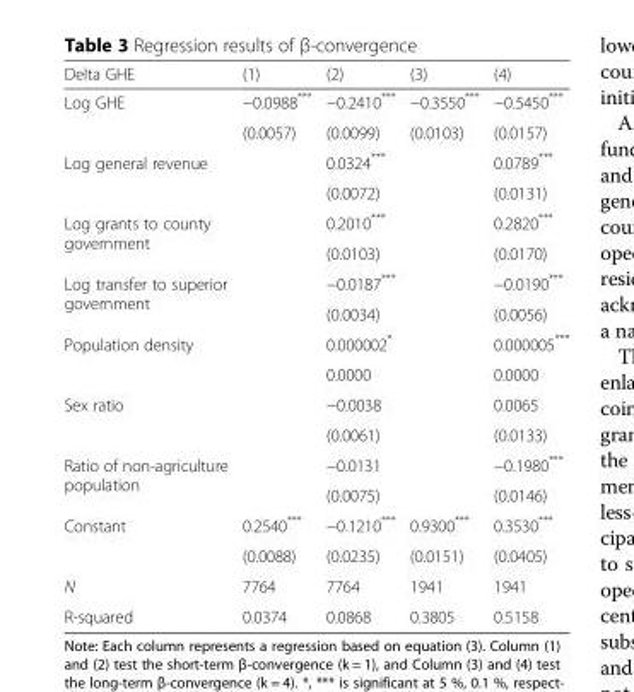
<table><thead><tr><td>Delta GHE</td><td>(1)</td><td>(2)</td><td>(3)</td><td>(4)</td></tr></thead><tbody><tr><td rowspan="2">Log GHE</td><td>−0.0988***</td><td>−0.2410***</td><td>−0.3550***</td><td>−0.5450***</td></tr><tr><td>(0.0057)</td><td>(0.0099)</td><td>(0.0103)</td><td>(0.0157)</td></tr><tr><td rowspan="2">Log general revenue</td><td></td><td>0.0324***</td><td></td><td>0.0789***</td></tr><tr><td></td><td>(0.0072)</td><td></td><td>(0.0131)</td></tr><tr><td rowspan="2">Log grants to county government</td><td></td><td>0.2010***</td><td></td><td>0.2820***</td></tr><tr><td></td><td>(0.0103)</td><td></td><td>(0.0170)</td></tr><tr><td rowspan="2">Log transfer to superior government</td><td></td><td>−0.0187***</td><td></td><td>−0.0190***</td></tr><tr><td></td><td>(0.0034)</td><td></td><td>(0.0056)</td></tr><tr><td rowspan="2">Population density</td><td></td><td>0.000002*</td><td></td><td>0.000005***</td></tr><tr><td></td><td>0.0000</td><td></td><td>0.0000</td></tr><tr><td rowspan="2">Sex ratio</td><td></td><td>−0.0038</td><td></td><td>0.0065</td></tr><tr><td></td><td>(0.0061)</td><td></td><td>(0.0133)</td></tr><tr><td rowspan="2">Ratio of non-agriculture population</td><td></td><td>−0.0131</td><td></td><td>−0.1980***</td></tr><tr><td></td><td>(0.0075)</td><td></td><td>(0.0146)</td></tr><tr><td rowspan="2">Constant</td><td>0.2540***</td><td>−0.1210***</td><td>0.9300***</td><td>0.3530***</td></tr><tr><td>(0.0088)</td><td>(0.0235)</td><td>(0.0151)</td><td>(0.0405)</td></tr><tr><td>N</td><td>7764</td><td>7764</td><td>1941</td><td>1941</td></tr><tr><td>R-squared</td><td>0.0374</td><td>0.0868</td><td>0.3805</td><td>0.5158</td></tr></tbody></table>